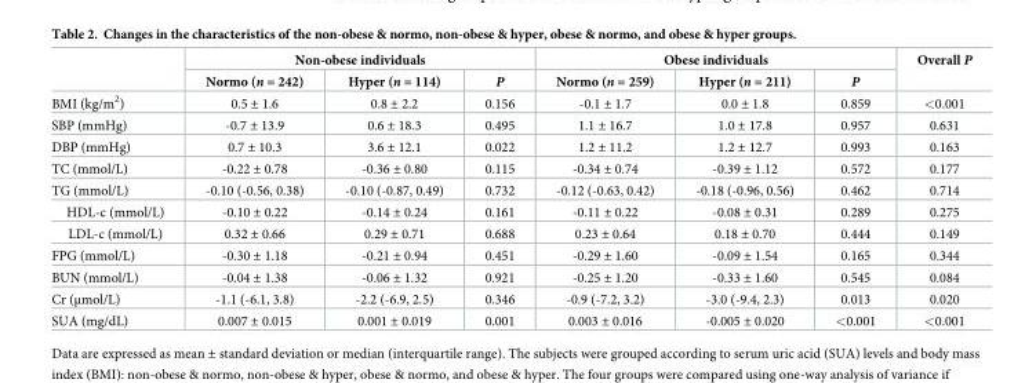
<table><thead><tr><td rowspan="2"></td><td colspan="3">Non-obese individuals</td><td colspan="3">Obese individuals</td><td rowspan="2">Overall P</td></tr><tr><td>Normo (n = 242)</td><td>Hyper (n = 114)</td><td>P</td><td>Normo (n = 259)</td><td>Hyper (n = 211)</td><td>P</td></tr></thead><tbody><tr><td>BMI (kg/m<sup>2</sup>)</td><td>0.5 ± 1.6</td><td>0.8 ± 2.2</td><td>0.156</td><td>-0.1 ± 1.7</td><td>0.0 ± 1.8</td><td>0.859</td><td>&lt;0.001</td></tr><tr><td>SBP (mmHg)</td><td>-0.7 ± 13.9</td><td>0.6 ± 18.3</td><td>0.495</td><td>1.1 ± 16.7</td><td>1.0 ± 17.8</td><td>0.957</td><td>0.631</td></tr><tr><td>DBP (mmHg)</td><td>0.7 ± 10.3</td><td>3.6 ± 12.1</td><td>0.022</td><td>1.2 ± 11.2</td><td>1.2 ± 12.7</td><td>0.993</td><td>0.163</td></tr><tr><td>TC (mmol/L)</td><td>-0.22 ± 0.78</td><td>-0.36 ± 0.80</td><td>0.115</td><td>-0.34 ± 0.74</td><td>-0.39 ± 1.12</td><td>0.572</td><td>0.177</td></tr><tr><td>TG (mmol/L)</td><td>-0.10 (-0.56, 0.38)</td><td>-0.10 (-0.87, 0.49)</td><td>0.732</td><td>-0.12 (-0.63, 0.42)</td><td>-0.18 (-0.96, 0.56)</td><td>0.462</td><td>0.714</td></tr><tr><td>HDL-c (mmol/L)</td><td>-0.10 ± 0.22</td><td>-0.14 ± 0.24</td><td>0.161</td><td>-0.11 ± 0.22</td><td>-0.08 ± 0.31</td><td>0.289</td><td>0.275</td></tr><tr><td>LDL-c (mmol/L)</td><td>0.32 ± 0.66</td><td>0.29 ± 0.71</td><td>0.688</td><td>0.23 ± 0.64</td><td>0.18 ± 0.70</td><td>0.444</td><td>0.149</td></tr><tr><td>FPG (mmol/L)</td><td>-0.30 ± 1.18</td><td>-0.21 ± 0.94</td><td>0.451</td><td>-0.29 ± 1.60</td><td>-0.09 ± 1.54</td><td>0.165</td><td>0.344</td></tr><tr><td>BUN (mmol/L)</td><td>-0.04 ± 1.38</td><td>-0.06 ± 1.32</td><td>0.921</td><td>-0.25 ± 1.20</td><td>-0.33 ± 1.60</td><td>0.545</td><td>0.084</td></tr><tr><td>Cr (μmol/L)</td><td>-1.1 (-6.1, 3.8)</td><td>-2.2 (-6.9, 2.5)</td><td>0.346</td><td>-0.9 (-7.2, 3.2)</td><td>-3.0 (-9.4, 2.3)</td><td>0.013</td><td>0.020</td></tr><tr><td>SUA (mg/dL)</td><td>0.007 ± 0.015</td><td>0.001 ± 0.019</td><td>0.001</td><td>0.003 ± 0.016</td><td>-0.005 ± 0.020</td><td>&lt;0.001</td><td>&lt;0.001</td></tr></tbody></table>